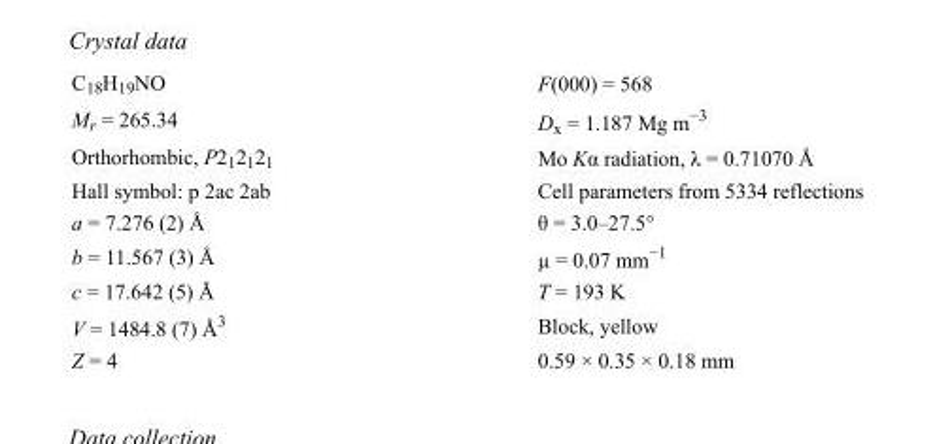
<table><tbody><tr><td>C<sub>18</sub>H<sub>19</sub>NO</td><td>F(000) = 568</td></tr><tr><td>M<sub>r</sub> = 265.34</td><td>D<sub>x</sub> = 1.187 Mg m<sup>−3</sup></td></tr><tr><td>Orthorhombic, P2<sub>1</sub>2<sub>1</sub>2<sub>1</sub></td><td>Mo Kα radiation, λ = 0.71070 Å</td></tr><tr><td>Hall symbol: p 2ac 2ab</td><td>Cell parameters from 5334 reflections</td></tr><tr><td>a = 7.276 (2) Å</td><td>θ = 3.0–27.5°</td></tr><tr><td>b = 11.567 (3) Å</td><td>µ = 0.07 mm<sup>−1</sup></td></tr><tr><td>c = 17.642 (5) Å</td><td>T = 193 K</td></tr><tr><td>V = 1484.8 (7) Å<sup>3</sup></td><td>Block, yellow</td></tr><tr><td>Z = 4</td><td>0.59 × 0.35 × 0.18 mm</td></tr></tbody></table>